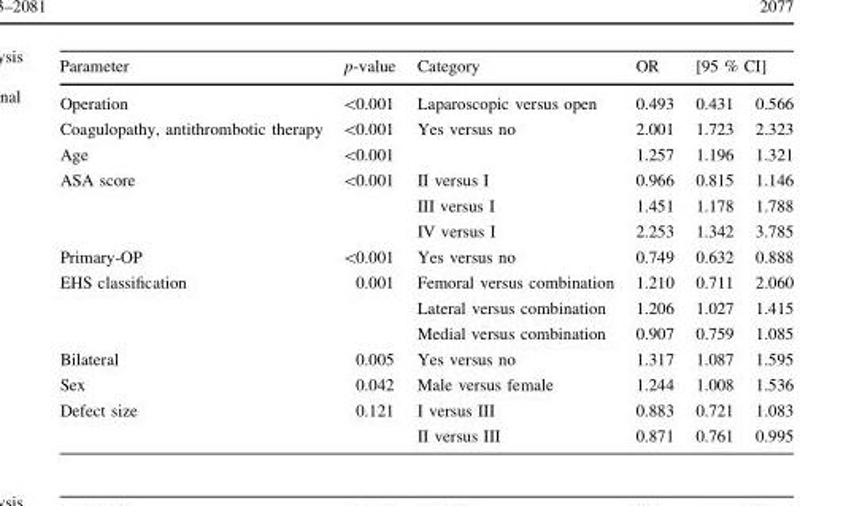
<table><thead><tr><td rowspan="2">Parameter Operation</td><td rowspan="2">p-value &lt;0.001</td><td rowspan="2">Category Laparoscopic versus open</td><td rowspan="2">OR 0.493</td><td colspan="2">[95 % CI]</td></tr><tr><td>0.431</td><td>0.566</td></tr></thead><tbody><tr><td>Coagulopathy, antithrombotic therapy</td><td>&lt;0.001</td><td>Yes versus no</td><td>2.001</td><td>1.723</td><td>2.323</td></tr><tr><td>Age</td><td>&lt;0.001</td><td></td><td>1.257</td><td>1.196</td><td>1.321</td></tr><tr><td rowspan="3">ASA score</td><td rowspan="3">&lt;0.001</td><td>II versus I</td><td>0.966</td><td>0.815</td><td>1.146</td></tr><tr><td>III versus I</td><td>1.451</td><td>1.178</td><td>1.788</td></tr><tr><td>IV versus I</td><td>2.253</td><td>1.342</td><td>3.785</td></tr><tr><td>Primary-OP</td><td>&lt;0.001</td><td>Yes versus no</td><td>0.749</td><td>0.632</td><td>0.888</td></tr><tr><td rowspan="3">EHS classification</td><td rowspan="3">0.001</td><td>Femoral versus combination</td><td>1.210</td><td>0.711</td><td>2.060</td></tr><tr><td>Lateral versus combination</td><td>1.206</td><td>1.027</td><td>1.415</td></tr><tr><td>Medial versus combination</td><td>0.907</td><td>0.759</td><td>1.085</td></tr><tr><td>Bilateral</td><td>0.005</td><td>Yes versus no</td><td>1.317</td><td>1.087</td><td>1.595</td></tr><tr><td>Sex</td><td>0.042</td><td>Male versus female</td><td>1.244</td><td>1.008</td><td>1.536</td></tr><tr><td rowspan="2">Defect size</td><td rowspan="2">0.121</td><td>I versus III</td><td>0.883</td><td>0.721</td><td>1.083</td></tr><tr><td>II versus III</td><td>0.871</td><td>0.761</td><td>0.995</td></tr></tbody></table>